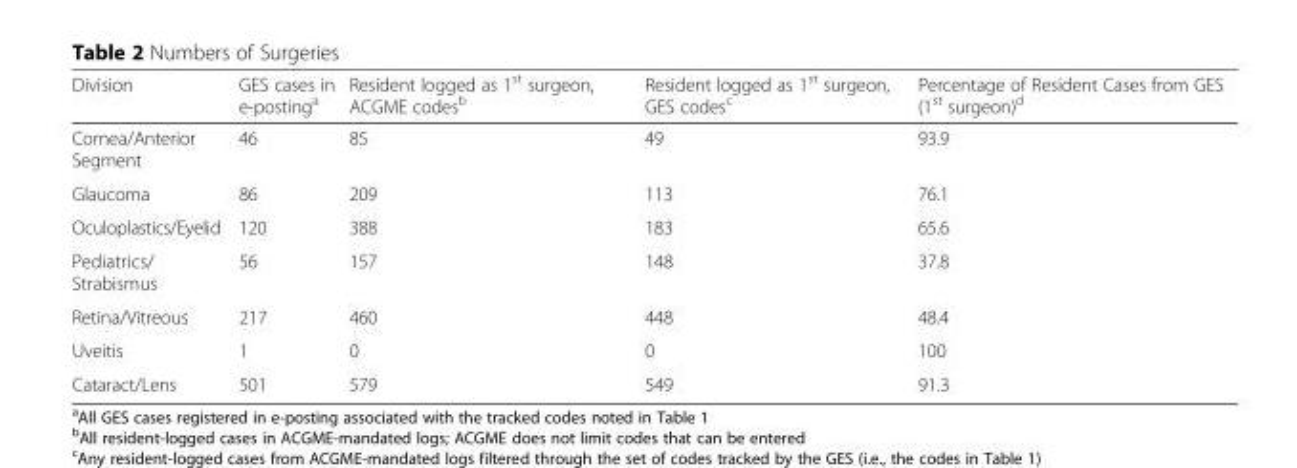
<table><thead><tr><td>Division</td><td>GES cases in e-posting<sup>a</sup></td><td>Resident logged as 1<sup>st</sup> surgeon, ACGME codes<sup>b</sup></td><td>Resident logged as 1<sup>st</sup> surgeon, GES codes<sup>c</sup></td><td>Percentage of Resident Cases from GES (1<sup>st</sup> surgeon)<sup>d</sup></td></tr></thead><tbody><tr><td>Cornea/Anterior Segment</td><td>46</td><td>85</td><td>49</td><td>93.9</td></tr><tr><td>Glaucoma</td><td>86</td><td>209</td><td>113</td><td>76.1</td></tr><tr><td>Oculoplastics/Eyelid</td><td>120</td><td>388</td><td>183</td><td>65.6</td></tr><tr><td>Pediatrics/ Strabismus</td><td>56</td><td>157</td><td>148</td><td>37.8</td></tr><tr><td>Retina/Vitreous</td><td>217</td><td>460</td><td>448</td><td>48.4</td></tr><tr><td>Uveitis</td><td>1</td><td>0</td><td>0</td><td>100</td></tr><tr><td>Cataract/Lens</td><td>501</td><td>579</td><td>549</td><td>91.3</td></tr></tbody></table>